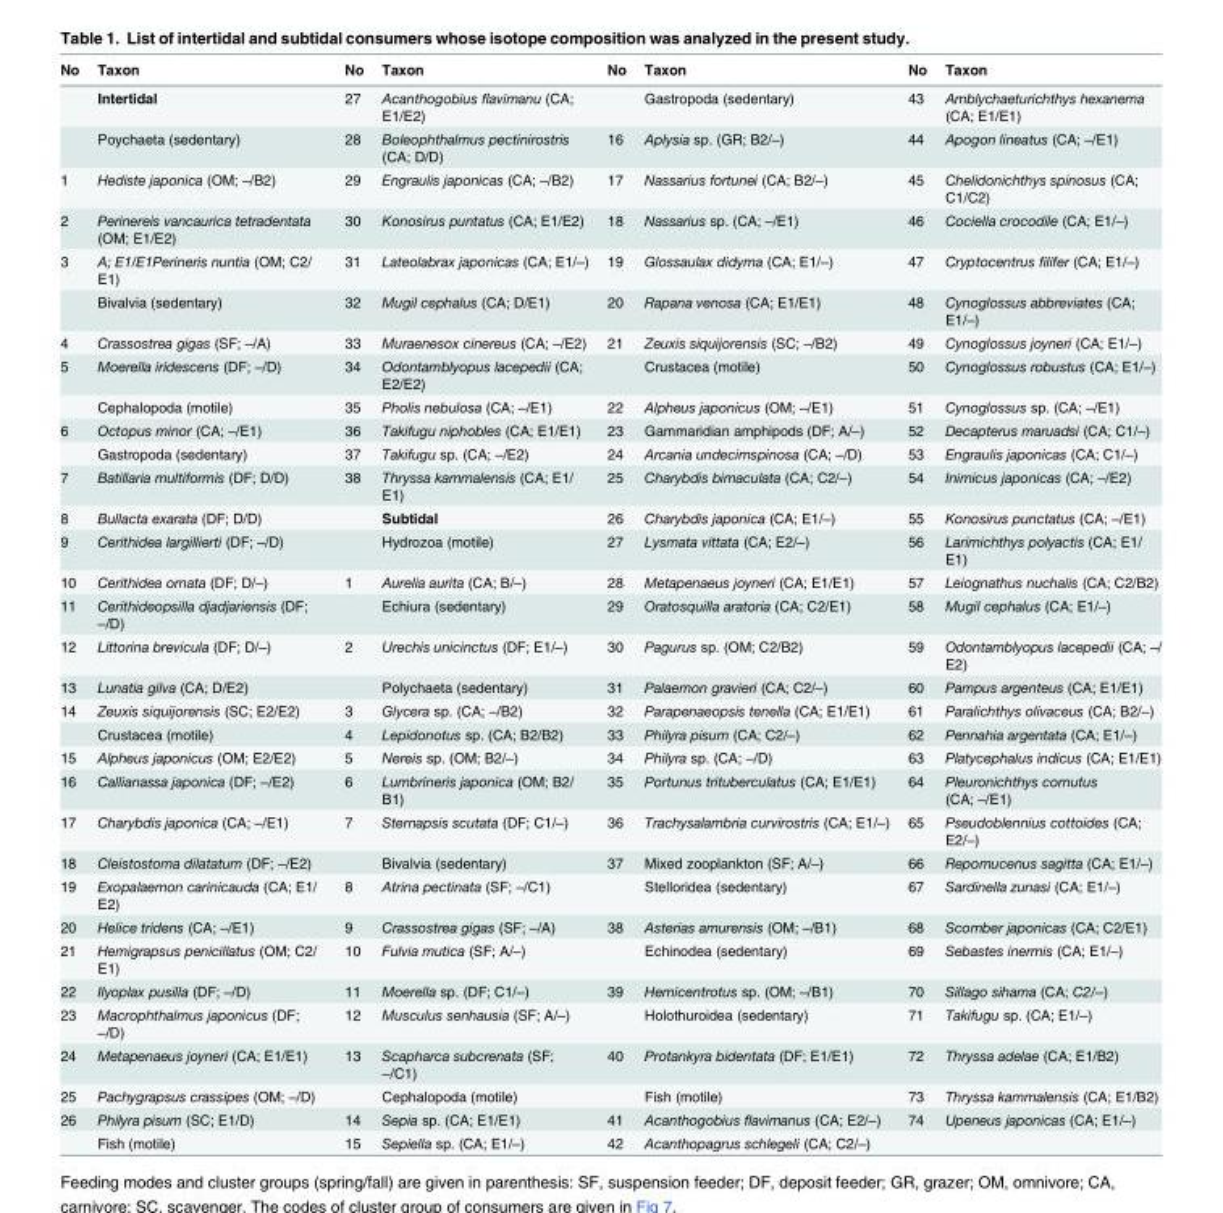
<table><thead><tr><td>No</td><td>Taxon</td><td>No</td><td>Taxon</td><td>No</td><td>Taxon</td><td>No</td><td>Taxon</td></tr></thead><tbody><tr><td></td><td>Intertidal</td><td>27</td><td>Acanthogobius flavimanu (CA; E1/E2)</td><td></td><td>Gastropoda (sedentary)</td><td>43</td><td>Amblychaeturichthys hexanema (CA; E1/E1)</td></tr><tr><td></td><td>Poychaeta (sedentary)</td><td>28</td><td>Boleophthalmus pectinirostris (CA; D/D)</td><td>16</td><td>Aplysia sp. (GR; B2/‒)</td><td>44</td><td>Apogon lineatus (CA; ‒/E1)</td></tr><tr><td>1</td><td>Hediste japonica (OM; ‒/B2)</td><td>29</td><td>Engraulis japonicas (CA; ‒/B2)</td><td>17</td><td>Nassarius fortunei (CA; B2/‒)</td><td>45</td><td>Chelidonichthys spinosus (CA; C1/C2)</td></tr><tr><td>2</td><td>Perinereis vancaurica tetradentata (OM; E1/E2)</td><td>30</td><td>Konosirus puntatus (CA; E1/E2)</td><td>18</td><td>Nassarius sp. (CA; ‒/E1)</td><td>46</td><td>Cociella crocodile (CA; E1/‒)</td></tr><tr><td rowspan="2">3</td><td>A; E1/E1Perineris nuntia (OM; C2/ E1)</td><td>31</td><td>Lateolabrax japonicas (CA; E1/‒)</td><td>19</td><td>Glossaulax didyma (CA; E1/‒)</td><td>47</td><td>Cryptocentrus filifer (CA; E1/‒)</td></tr><tr><td>Bivalvia (sedentary)</td><td>32</td><td>Mugil cephalus (CA; D/E1)</td><td>20</td><td>Rapana venosa (CA; E1/E1)</td><td>48</td><td>Cynoglossus abbreviates (CA; E1/‒)</td></tr><tr><td>4</td><td>Crassostrea gigas (SF; ‒/A)</td><td>33</td><td>Muraenesox cinereus (CA; ‒/E2)</td><td>21</td><td>Zeuxis siquijorensis (SC; ‒/B2)</td><td>49</td><td>Cynoglossus joyneri (CA; E1/‒)</td></tr><tr><td rowspan="2">5</td><td>Moerella iridescens (DF; ‒/D)</td><td>34</td><td>Odontamblyopus lacepedii (CA; E2/E2)</td><td></td><td>Crustacea (motile)</td><td>50</td><td>Cynoglossus robustus (CA; E1/‒)</td></tr><tr><td>Cephalopoda (motile)</td><td>35</td><td>Pholis nebulosa (CA; ‒/E1)</td><td>22</td><td>Alpheus japonicus (OM; ‒/E1)</td><td>51</td><td>Cynoglossus sp. (CA; ‒/E1)</td></tr><tr><td rowspan="2">6</td><td>Octopus minor (CA; ‒/E1)</td><td>36</td><td>Takifugu niphobles (CA; E1/E1)</td><td>23</td><td>Gammaridian amphipods (DF; A/‒)</td><td>52</td><td>Decapterus maruadsi (CA; C1/‒)</td></tr><tr><td>Gastropoda (sedentary)</td><td>37</td><td>Takifugu sp. (CA; ‒/E2)</td><td>24</td><td>Arcania undecimspinosa (CA; ‒/D)</td><td>53</td><td>Engraulis japonicas (CA; C1/‒)</td></tr><tr><td>7</td><td>Batillaria multiformis (DF; D/D)</td><td>38</td><td>Thryssa kammalensis (CA; E1/ E1)</td><td>25</td><td>Charybdis bimaculata (CA; C2/‒)</td><td>54</td><td>Inimicus japonicas (CA; ‒/E2)</td></tr><tr><td>8</td><td>Bullacta exarata (DF; D/D)</td><td></td><td>Subtidal</td><td>26</td><td>Charybdis japonica (CA; E1/‒)</td><td>55</td><td>Konosirus punctatus (CA; ‒/E1)</td></tr><tr><td>9</td><td>Cerithidea largillierti (DF; ‒/D)</td><td></td><td>Hydrozoa (motile)</td><td>27</td><td>Lysmata vittata (CA; E2/‒)</td><td>56</td><td>Larimichthys polyactis (CA; E1/ E1)</td></tr><tr><td>10</td><td>Cerithidea ornata (DF; D/‒)</td><td>1</td><td>Aurelia aurita (CA; B/‒)</td><td>28</td><td>Metapenaeus joyneri (CA; E1/E1)</td><td>57</td><td>Leiognathus nuchalis (CA; C2/B2)</td></tr><tr><td>11</td><td>Cerithideopsilla djadjariensis (DF; ‒/D)</td><td></td><td>Echiura (sedentary)</td><td>29</td><td>Oratosquilla aratoria (CA; C2/E1)</td><td>58</td><td>Mugil cephalus (CA; E1/‒)</td></tr><tr><td>12</td><td>Littorina brevicula (DF; D/‒)</td><td>2</td><td>Urechis unicinctus (DF; E1/‒)</td><td>30</td><td>Pagurus sp. (OM; C2/B2)</td><td>59</td><td>Odontamblyopus lacepedii (CA; ‒/ E2)</td></tr><tr><td>13</td><td>Lunatia gilva (CA; D/E2)</td><td></td><td>Polychaeta (sedentary)</td><td>31</td><td>Palaemon gravieri (CA; C2/‒)</td><td>60</td><td>Pampus argenteus (CA; E1/E1)</td></tr><tr><td rowspan="2">14</td><td>Zeuxis siquijorensis (SC; E2/E2)</td><td>3</td><td>Glycera sp. (CA; ‒/B2)</td><td>32</td><td>Parapenaeopsis tenella (CA; E1/E1)</td><td>61</td><td>Paralichthys olivaceus (CA; B2/‒)</td></tr><tr><td>Crustacea (motile)</td><td>4</td><td>Lepidonotus sp. (CA; B2/B2)</td><td>33</td><td>Philyra pisum (CA; C2/‒)</td><td>62</td><td>Pennahia argentata (CA; E1/‒)</td></tr><tr><td>15</td><td>Alpheus japonicus (OM; E2/E2)</td><td>5</td><td>Nereis sp. (OM; B2/‒)</td><td>34</td><td>Philyra sp. (CA; ‒/D)</td><td>63</td><td>Platycephalus indicus (CA; E1/E1)</td></tr><tr><td>16</td><td>Callianassa japonica (DF; ‒/E2)</td><td>6</td><td>Lumbrineris japonica (OM; B2/ B1)</td><td>35</td><td>Portunus trituberculatus (CA; E1/E1)</td><td>64</td><td>Pleuronichthys cornutus (CA; ‒/E1)</td></tr><tr><td>17</td><td>Charybdis japonica (CA; ‒/E1)</td><td>7</td><td>Sternapsis scutata (DF; C1/‒)</td><td>36</td><td>Trachysalambria curvirostris (CA; E1/‒)</td><td>65</td><td>Pseudoblennius cottoides (CA; E2/‒)</td></tr><tr><td>18</td><td>Cleistostoma dilatatum (DF; ‒/E2)</td><td></td><td>Bivalvia (sedentary)</td><td>37</td><td>Mixed zooplankton (SF; A/‒)</td><td>66</td><td>Repomucenus sagitta (CA; E1/‒)</td></tr><tr><td>19</td><td>Exopalaemon carinicauda (CA; E1/ E2)</td><td>8</td><td>Atrina pectinata (SF; ‒/C1)</td><td></td><td>Stelloridea (sedentary)</td><td>67</td><td>Sardinella zunasi (CA; E1/‒)</td></tr><tr><td>20</td><td>Helice tridens (CA; ‒/E1)</td><td>9</td><td>Crassostrea gigas (SF; ‒/A)</td><td>38</td><td>Asterias amurensis (OM; ‒/B1)</td><td>68</td><td>Scomber japonicas (CA; C2/E1)</td></tr><tr><td>21</td><td>Hemigrapsus penicillatus (OM; C2/ E1)</td><td>10</td><td>Fulvia mutica (SF; A/‒)</td><td></td><td>Echinodea (sedentary)</td><td>69</td><td>Sebastes inermis (CA; E1/‒)</td></tr><tr><td>22</td><td>Ilyoplax pusilla (DF; ‒/D)</td><td>11</td><td>Moerella sp. (DF; C1/‒)</td><td>39</td><td>Hemicentrotus sp. (OM; ‒/B1)</td><td>70</td><td>Sillago sihama (CA; C2/‒)</td></tr><tr><td>23</td><td>Macrophthalmus japonicus (DF; ‒/D)</td><td>12</td><td>Musculus senhausia (SF; A/‒)</td><td></td><td>Holothuroidea (sedentary)</td><td>71</td><td>Takifugu sp. (CA; E1/‒)</td></tr><tr><td>24</td><td>Metapenaeus joyneri (CA; E1/E1)</td><td>13</td><td>Scapharca subcrenata (SF; ‒/C1)</td><td>40</td><td>Protankyra bidentata (DF; E1/E1)</td><td>72</td><td>Thryssa adelae (CA; E1/B2)</td></tr><tr><td>25</td><td>Pachygrapsus crassipes (OM; ‒/D)</td><td></td><td>Cephalopoda (motile)</td><td></td><td>Fish (motile)</td><td>73</td><td>Thryssa kammalensis (CA; E1/B2)</td></tr><tr><td rowspan="2">26</td><td>Philyra pisum (SC; E1/D)</td><td>14</td><td>Sepia sp. (CA; E1/E1)</td><td>41</td><td>Acanthogobius flavimanus (CA; E2/‒)</td><td>74</td><td>Upeneus japonicas (CA; E1/‒)</td></tr><tr><td>Fish (motile)</td><td>15</td><td>Sepiella sp. (CA; E1/‒)</td><td>42</td><td>Acanthopagrus schlegeli (CA; C2/‒)</td><td></td><td></td></tr></tbody></table>